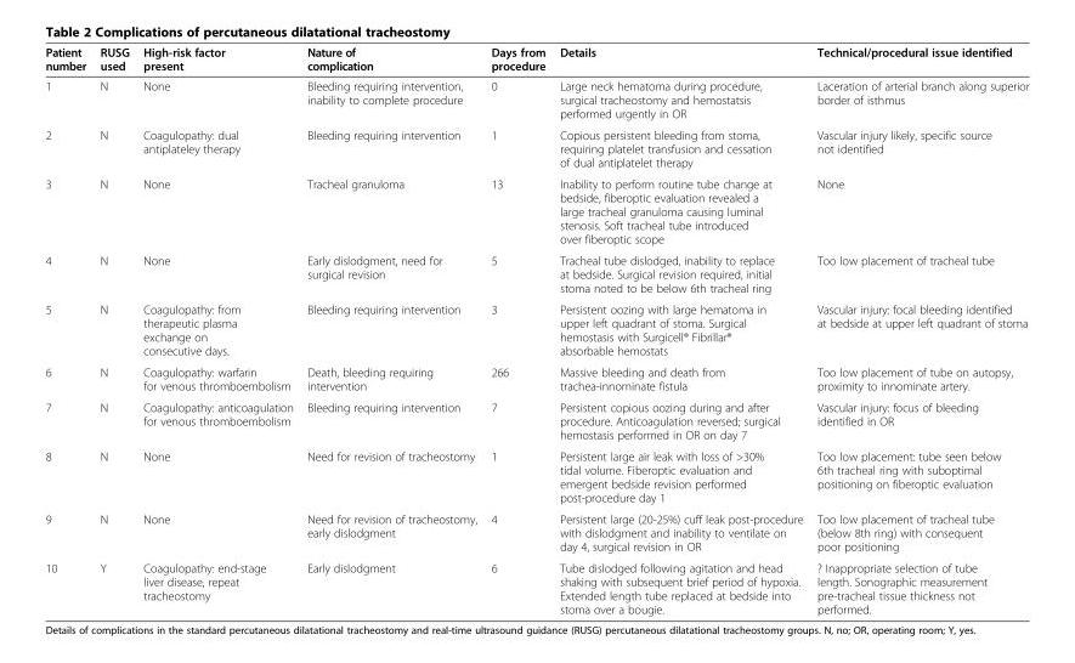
<table><thead><tr><td>Patient number</td><td>RUSG used</td><td>High-risk factor present</td><td>Nature of complication</td><td>Days from procedure</td><td>Details</td><td>Technical/procedural issue identified</td></tr></thead><tbody><tr><td>1</td><td>N</td><td>None</td><td>Bleeding requiring intervention, inability to complete procedure</td><td>0</td><td>Large neck hematoma during procedure, surgical tracheostomy and hemostatsis performed urgently in OR</td><td>Laceration of arterial branch along superior border of isthmus</td></tr><tr><td>2</td><td>N</td><td>Coagulopathy: dual antiplateley therapy</td><td>Bleeding requiring intervention</td><td>1</td><td>Copious persistent bleeding from stoma, requiring platelet transfusion and cessation of dual antiplatelet therapy</td><td>Vascular injury likely, specific source not identified</td></tr><tr><td>3</td><td>N</td><td>None</td><td>Tracheal granuloma</td><td>13</td><td>Inability to perform routine tube change at bedside, fiberoptic evaluation revealed a large tracheal granuloma causing luminal stenosis. Soft tracheal tube introduced over fiberoptic scope</td><td>None</td></tr><tr><td>4</td><td>N</td><td>None</td><td>Early dislodgment, need for surgical revision</td><td>5</td><td>Tracheal tube dislodged, inability to replace at bedside. Surgical revision required, initial stoma noted to be below 6th tracheal ring</td><td>Too low placement of tracheal tube</td></tr><tr><td>5</td><td>N</td><td>Coagulopathy: from therapeutic plasma exchange on consecutive days.</td><td>Bleeding requiring intervention</td><td>3</td><td>Persistent oozing with large hematoma in upper left quadrant of stoma. Surgical hemostasis with Surgicell® Fibrillar® absorbable hemostats</td><td>Vascular injury: focal bleeding identified at bedside at upper left quadrant of stoma</td></tr><tr><td>6</td><td>N</td><td>Coagulopathy: warfarin for venous thromboembolism</td><td>Death, bleeding requiring intervention</td><td>266</td><td>Massive bleeding and death from trachea-innominate fistula</td><td>Too low placement of tube on autopsy, proximity to innominate artery.</td></tr><tr><td>7</td><td>N</td><td>Coagulopathy: anticoagulation for venous thromboembolism</td><td>Bleeding requiring intervention</td><td>7</td><td>Persistent copious oozing during and after procedure. Anticoagulation reversed; surgical hemostasis performed in OR on day 7</td><td>Vascular injury: focus of bleeding identified in OR</td></tr><tr><td>8</td><td>N</td><td>None</td><td>Need for revision of tracheostomy</td><td>1</td><td>Persistent large air leak with loss of &gt;30% tidal volume. Fiberoptic evaluation and emergent bedside revision performed post-procedure day 1</td><td>Too low placement: tube seen below 6th tracheal ring with suboptimal positioning on fiberoptic evaluation</td></tr><tr><td>9</td><td>N</td><td>None</td><td>Need for revision of tracheostomy, early dislodgment</td><td>4</td><td>Persistent large (20-25%) cuff leak post-procedure with dislodgment and inability to ventilate on day 4, surgical revision in OR</td><td>Too low placement of tracheal tube (below 8th ring) with consequent poor positioning</td></tr><tr><td>10</td><td>Y</td><td>Coagulopathy: end-stage liver disease, repeat tracheostomy</td><td>Early dislodgment</td><td>6</td><td>Tube dislodged following agitation and head shaking with subsequent brief period of hypoxia. Extended length tube replaced at bedside into stoma over a bougie.</td><td>? Inappropriate selection of tube length. Sonographic measurement pre-tracheal tissue thickness not performed.</td></tr></tbody></table>